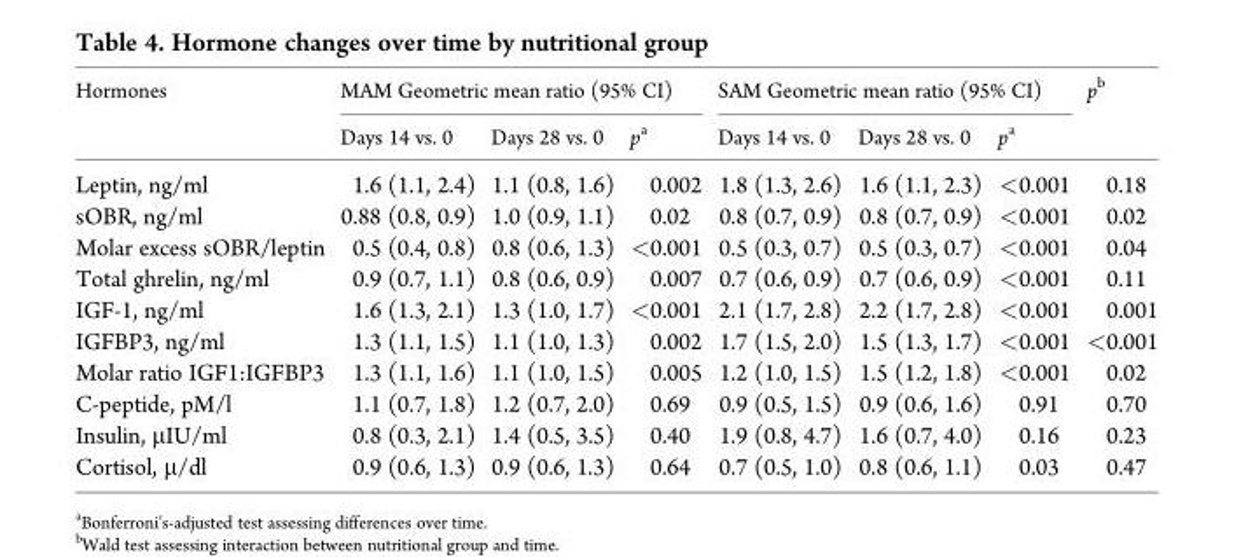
<table><thead><tr><td rowspan="2">Hormones</td><td colspan="3">MAM Geometric mean ratio (95% CI)</td><td colspan="3">SAM Geometric mean ratio (95% CI)</td><td rowspan="2">p<sup>b</sup></td></tr><tr><td>Days 14 vs. 0</td><td>Days 28 vs. 0</td><td>p<sup>a</sup></td><td>Days 14 vs. 0</td><td>Days 28 vs. 0</td><td>p<sup>a</sup></td></tr></thead><tbody><tr><td>Leptin, ng/ml</td><td>1.6 (1.1, 2.4)</td><td>1.1 (0.8, 1.6)</td><td>0.002</td><td>1.8 (1.3, 2.6)</td><td>1.6 (1.1, 2.3)</td><td>&lt;0.001</td><td>0.18</td></tr><tr><td>sOBR, ng/ml</td><td>0.88 (0.8, 0.9)</td><td>1.0 (0.9, 1.1)</td><td>0.02</td><td>0.8 (0.7, 0.9)</td><td>0.8 (0.7, 0.9)</td><td>&lt;0.001</td><td>0.02</td></tr><tr><td>Molar excess sOBR/leptin</td><td>0.5 (0.4, 0.8)</td><td>0.8 (0.6, 1.3)</td><td>&lt;0.001</td><td>0.5 (0.3, 0.7)</td><td>0.5 (0.3, 0.7)</td><td>&lt;0.001</td><td>0.04</td></tr><tr><td>Total ghrelin, ng/ml</td><td>0.9 (0.7, 1.1)</td><td>0.8 (0.6, 0.9)</td><td>0.007</td><td>0.7 (0.6, 0.9)</td><td>0.7 (0.6, 0.9)</td><td>&lt;0.001</td><td>0.11</td></tr><tr><td>IGF-1, ng/ml</td><td>1.6 (1.3, 2.1)</td><td>1.3 (1.0, 1.7)</td><td>&lt;0.001</td><td>2.1 (1.7, 2.8)</td><td>2.2 (1.7, 2.8)</td><td>&lt;0.001</td><td>0.001</td></tr><tr><td>IGFBP3, ng/ml</td><td>1.3 (1.1, 1.5)</td><td>1.1 (1.0, 1.3)</td><td>0.002</td><td>1.7 (1.5, 2.0)</td><td>1.5 (1.3, 1.7)</td><td>&lt;0.001</td><td>&lt;0.001</td></tr><tr><td>Molar ratio IGF1:IGFBP3</td><td>1.3 (1.1, 1.6)</td><td>1.1 (1.0, 1.5)</td><td>0.005</td><td>1.2 (1.0, 1.5)</td><td>1.5 (1.2, 1.8)</td><td>&lt;0.001</td><td>0.02</td></tr><tr><td>C-peptide, pM/l</td><td>1.1 (0.7, 1.8)</td><td>1.2 (0.7, 2.0)</td><td>0.69</td><td>0.9 (0.5, 1.5)</td><td>0.9 (0.6, 1.6)</td><td>0.91</td><td>0.70</td></tr><tr><td>Insulin, µIU/ml</td><td>0.8 (0.3, 2.1)</td><td>1.4 (0.5, 3.5)</td><td>0.40</td><td>1.9 (0.8, 4.7)</td><td>1.6 (0.7, 4.0)</td><td>0.16</td><td>0.23</td></tr><tr><td>Cortisol, µ/dl</td><td>0.9 (0.6, 1.3)</td><td>0.9 (0.6, 1.3)</td><td>0.64</td><td>0.7 (0.5, 1.0)</td><td>0.8 (0.6, 1.1)</td><td>0.03</td><td>0.47</td></tr></tbody></table>